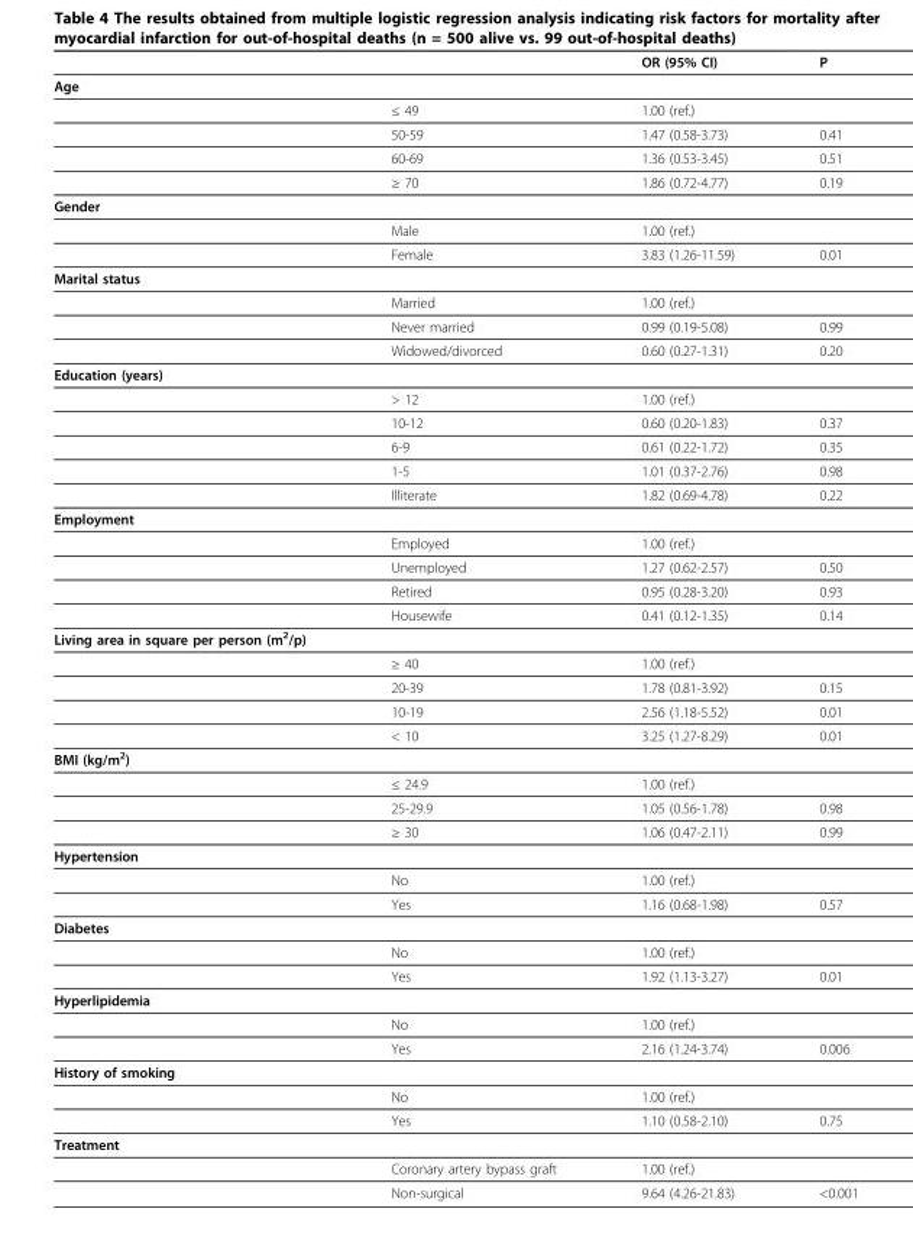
<table><thead><tr><td></td><td></td><td>OR (95% CI)</td><td>P</td></tr></thead><tbody><tr><td colspan="4">Age</td></tr><tr><td></td><td>≤ 49</td><td>1.00 (ref.)</td><td></td></tr><tr><td></td><td>50-59</td><td>1.47 (0.58-3.73)</td><td>0.41</td></tr><tr><td></td><td>60-69</td><td>1.36 (0.53-3.45)</td><td>0.51</td></tr><tr><td></td><td>≥ 70</td><td>1.86 (0.72-4.77)</td><td>0.19</td></tr><tr><td colspan="4">Gender</td></tr><tr><td></td><td>Male</td><td>1.00 (ref.)</td><td></td></tr><tr><td></td><td>Female</td><td>3.83 (1.26-11.59)</td><td>0.01</td></tr><tr><td colspan="4">Marital status</td></tr><tr><td></td><td>Married</td><td>1.00 (ref.)</td><td></td></tr><tr><td></td><td>Never married</td><td>0.99 (0.19-5.08)</td><td>0.99</td></tr><tr><td></td><td>Widowed/divorced</td><td>0.60 (0.27-1.31)</td><td>0.20</td></tr><tr><td colspan="4">Education (years)</td></tr><tr><td></td><td>&gt; 12</td><td>1.00 (ref.)</td><td></td></tr><tr><td></td><td>10-12</td><td>0.60 (0.20-1.83)</td><td>0.37</td></tr><tr><td></td><td>6-9</td><td>0.61 (0.22-1.72)</td><td>0.35</td></tr><tr><td></td><td>1-5</td><td>1.01 (0.37-2.76)</td><td>0.98</td></tr><tr><td></td><td>Illiterate</td><td>1.82 (0.69-4.78)</td><td>0.22</td></tr><tr><td colspan="4">Employment</td></tr><tr><td></td><td>Employed</td><td>1.00 (ref.)</td><td></td></tr><tr><td></td><td>Unemployed</td><td>1.27 (0.62-2.57)</td><td>0.50</td></tr><tr><td></td><td>Retired</td><td>0.95 (0.28-3.20)</td><td>0.93</td></tr><tr><td></td><td>Housewife</td><td>0.41 (0.12-1.35)</td><td>0.14</td></tr><tr><td colspan="4">Living area in square per person (m2/p)</td></tr><tr><td></td><td>≥ 40</td><td>1.00 (ref.)</td><td></td></tr><tr><td></td><td>20-39</td><td>1.78 (0.81-3.92)</td><td>0.15</td></tr><tr><td></td><td>10-19</td><td>2.56 (1.18-5.52)</td><td>0.01</td></tr><tr><td></td><td>&lt; 10</td><td>3.25 (1.27-8.29)</td><td>0.01</td></tr><tr><td colspan="4">BMI (kg/m2)</td></tr><tr><td></td><td>≤ 24.9</td><td>1.00 (ref.)</td><td></td></tr><tr><td></td><td>25-29.9</td><td>1.05 (0.56-1.78)</td><td>0.98</td></tr><tr><td></td><td>≥ 30</td><td>1.06 (0.47-2.11)</td><td>0.99</td></tr><tr><td colspan="4">Hypertension</td></tr><tr><td></td><td>No</td><td>1.00 (ref.)</td><td></td></tr><tr><td></td><td>Yes</td><td>1.16 (0.68-1.98)</td><td>0.57</td></tr><tr><td colspan="4">Diabetes</td></tr><tr><td></td><td>No</td><td>1.00 (ref.)</td><td></td></tr><tr><td></td><td>Yes</td><td>1.92 (1.13-3.27)</td><td>0.01</td></tr><tr><td colspan="4">Hyperlipidemia</td></tr><tr><td></td><td>No</td><td>1.00 (ref.)</td><td></td></tr><tr><td></td><td>Yes</td><td>2.16 (1.24-3.74)</td><td>0.006</td></tr><tr><td colspan="4">History of smoking</td></tr><tr><td></td><td>No</td><td>1.00 (ref.)</td><td></td></tr><tr><td></td><td>Yes</td><td>1.10 (0.58-2.10)</td><td>0.75</td></tr><tr><td colspan="4">Treatment</td></tr><tr><td></td><td>Coronary artery bypass graft</td><td>1.00 (ref.)</td><td></td></tr><tr><td></td><td>Non-surgical</td><td>9.64 (4.26-21.83)</td><td>&lt;0.001</td></tr></tbody></table>